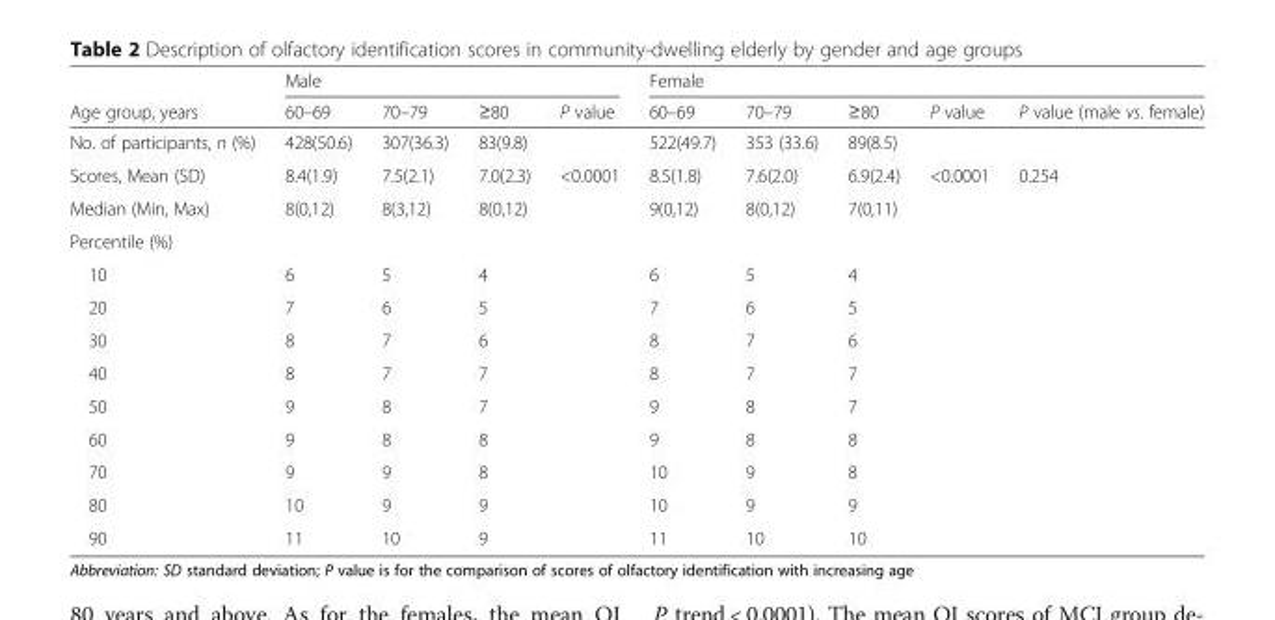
<table><thead><tr><td rowspan="2">Age group, years</td><td colspan="4">Male</td><td colspan="5">Female</td></tr><tr><td>60–69</td><td>70–79</td><td>≥80</td><td>P value</td><td>60–69</td><td>70–79</td><td>≥80</td><td>P value</td><td>P value (male vs. female)</td></tr></thead><tbody><tr><td>No. of participants, n (%)</td><td>428(50.6)</td><td>307(36.3)</td><td>83(9.8)</td><td></td><td>522(49.7)</td><td>353 (33.6)</td><td>89(8.5)</td><td></td><td></td></tr><tr><td>Scores, Mean (SD)</td><td>8.4(1.9)</td><td>7.5(2.1)</td><td>7.0(2.3)</td><td>&lt;0.0001</td><td>8.5(1.8)</td><td>7.6(2.0)</td><td>6.9(2.4)</td><td>&lt;0.0001</td><td>0.254</td></tr><tr><td>Median (Min, Max)</td><td>8(0,12)</td><td>8(3,12)</td><td>8(0,12)</td><td></td><td>9(0,12)</td><td>8(0,12)</td><td>7(0,11)</td><td></td><td></td></tr><tr><td colspan="10">Percentile (%)</td></tr><tr><td>10</td><td>6</td><td>5</td><td>4</td><td></td><td>6</td><td>5</td><td>4</td><td></td><td></td></tr><tr><td>20</td><td>7</td><td>6</td><td>5</td><td></td><td>7</td><td>6</td><td>5</td><td></td><td></td></tr><tr><td>30</td><td>8</td><td>7</td><td>6</td><td></td><td>8</td><td>7</td><td>6</td><td></td><td></td></tr><tr><td>40</td><td>8</td><td>7</td><td>7</td><td></td><td>8</td><td>7</td><td>7</td><td></td><td></td></tr><tr><td>50</td><td>9</td><td>8</td><td>7</td><td></td><td>9</td><td>8</td><td>7</td><td></td><td></td></tr><tr><td>60</td><td>9</td><td>8</td><td>8</td><td></td><td>9</td><td>8</td><td>8</td><td></td><td></td></tr><tr><td>70</td><td>9</td><td>9</td><td>8</td><td></td><td>10</td><td>9</td><td>8</td><td></td><td></td></tr><tr><td>80</td><td>10</td><td>9</td><td>9</td><td></td><td>10</td><td>9</td><td>9</td><td></td><td></td></tr><tr><td>90</td><td>11</td><td>10</td><td>9</td><td></td><td>11</td><td>10</td><td>10</td><td></td><td></td></tr></tbody></table>